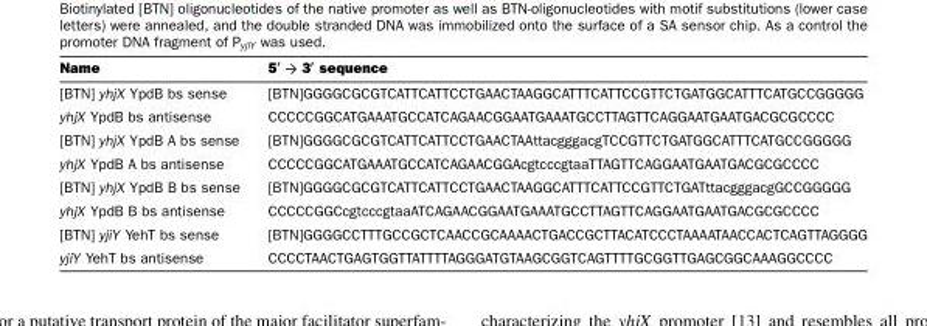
<table><thead><tr><td>Name</td><td>5′ 3′ sequence</td></tr></thead><tbody><tr><td>[BTN] yhjX YpdB bs sense</td><td>[BTN]GGGGCGCGTCATTCATTCCTGAACTAAGGCATTTCATTCCGTTCTGATGGCATTTCATGCCGGGGG</td></tr><tr><td>yhjX YpdB bs antisense</td><td>CCCCCGGCATGAAATGCCATCAGAACGGAATGAAATGCCTTAGTTCAGGAATGAATGACGCGCCCC</td></tr><tr><td>[BTN] yhjX YpdB A bs sense</td><td>[BTN]GGGGCGCGTCATTCATTCCTGAACTAAttacgggacgTCCGTTCTGATGGCATTTCATGCCGGGGG</td></tr><tr><td>yhjX YpdB A bs antisense</td><td>CCCCCGGCATGAAATGCCATCAGAACGGAcgtcccgtaaTTAGTTCAGGAATGAATGACGCGCCCC</td></tr><tr><td>[BTN] yhjX YpdB B bs sense</td><td>[BTN]GGGGCGCGTCATTCATTCCTGAACTAAGGCATTTCATTCCGTTCTGATttacgggacgGCCGGGGG</td></tr><tr><td>yhjX YpdB B bs antisense</td><td>CCCCCGGCcgtcccgtaaATCAGAACGGAATGAAATGCCTTAGTTCAGGAATGAATGACGCGCCCC</td></tr><tr><td>[BTN] yjiY YehT bs sense</td><td>[BTN]GGGGCCTTTGCCGCTCAACCGCAAAACTGACCGCTTACATCCCTAAAATAACCACTCAGTTAGGGG</td></tr><tr><td>yjiY YehT bs antisense</td><td>CCCCTAACTGAGTGGTTATTTTAGGGATGTAAGCGGTCAGTTTTGCGGTTGAGCGGCAAAGGCCCC</td></tr></tbody></table>